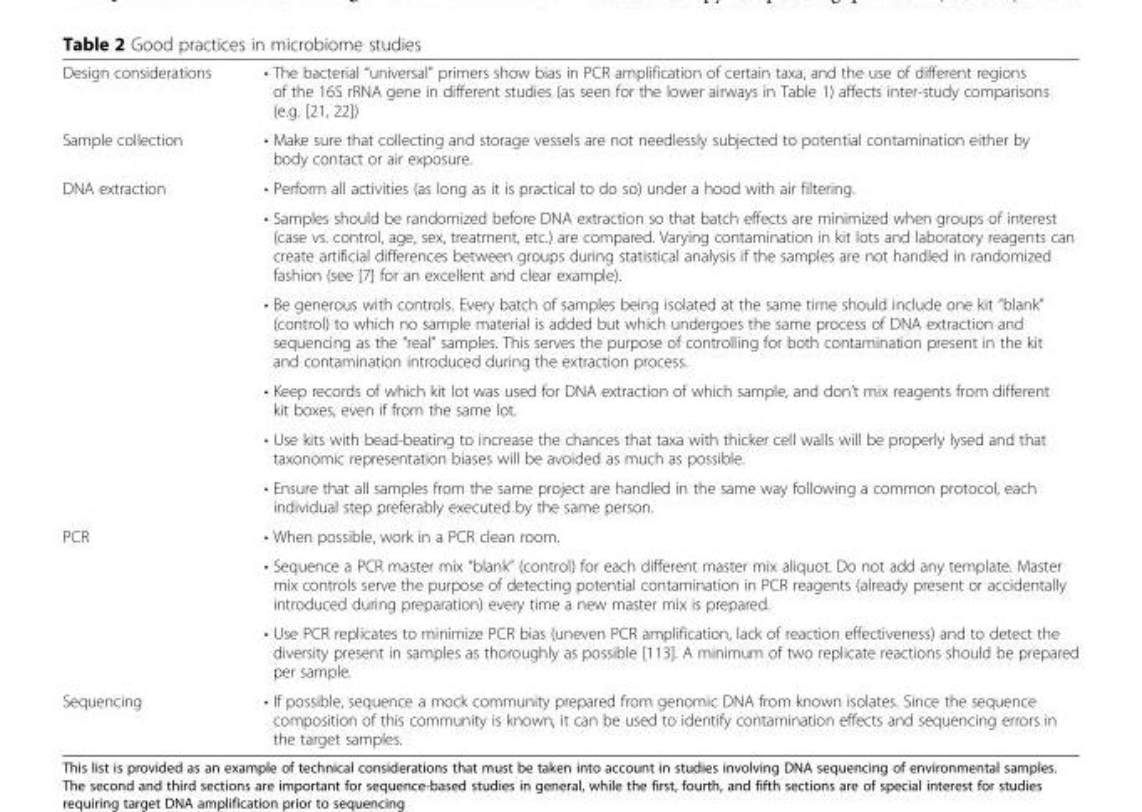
<table><tbody><tr><td>Design considerations</td><td>• The bacterial “universal” primers show bias in PCR amplification of certain taxa, and the use of different regions of the 16S rRNA gene in different studies (as seen for the lower airways in Table 1) affects inter-study comparisons (e.g. [21, 22])</td></tr><tr><td>Sample collection</td><td>• Make sure that collecting and storage vessels are not needlessly subjected to potential contamination either by body contact or air exposure.</td></tr><tr><td rowspan="6">DNA extraction</td><td>• Perform all activities (as long as it is practical to do so) under a hood with air filtering.</td></tr><tr><td>• Samples should be randomized before DNA extraction so that batch effects are minimized when groups of interest (case vs. control, age, sex, treatment, etc.) are compared. Varying contamination in kit lots and laboratory reagents can create artificial differences between groups during statistical analysis if the samples are not handled in randomized fashion (see [7] for an excellent and clear example).</td></tr><tr><td>• Be generous with controls. Every batch of samples being isolated at the same time should include one kit “blank” (control) to which no sample material is added but which undergoes the same process of DNA extraction and sequencing as the “real” samples. This serves the purpose of controlling for both contamination present in the kit and contamination introduced during the extraction process.</td></tr><tr><td>• Keep records of which kit lot was used for DNA extraction of which sample, and don’t mix reagents from different kit boxes, even if from the same lot.</td></tr><tr><td>• Use kits with bead-beating to increase the chances that taxa with thicker cell walls will be properly lysed and that taxonomic representation biases will be avoided as much as possible.</td></tr><tr><td>• Ensure that all samples from the same project are handled in the same way following a common protocol, each individual step preferably executed by the same person.</td></tr><tr><td rowspan="3">PCR</td><td>• When possible, work in a PCR clean room.</td></tr><tr><td>• Sequence a PCR master mix “blank” (control) for each different master mix aliquot. Do not add any template. Master mix controls serve the purpose of detecting potential contamination in PCR reagents (already present or accidentally introduced during preparation) every time a new master mix is prepared.</td></tr><tr><td>• Use PCR replicates to minimize PCR bias (uneven PCR amplification, lack of reaction effectiveness) and to detect the diversity present in samples as thoroughly as possible [113]. A minimum of two replicate reactions should be prepared per sample.</td></tr><tr><td>Sequencing</td><td>• If possible, sequence a mock community prepared from genomic DNA from known isolates. Since the sequence composition of this community is known, it can be used to identify contamination effects and sequencing errors in the target samples.</td></tr></tbody></table>